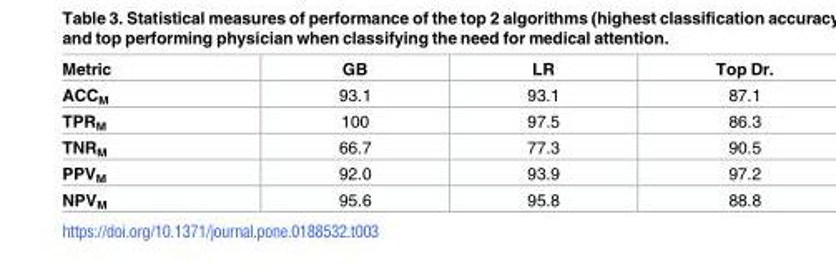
<table><thead><tr><td>Metric</td><td>GB</td><td>LR</td><td>Top Dr.</td></tr></thead><tbody><tr><td>ACC<sub>M</sub></td><td>93.1</td><td>93.1</td><td>87.1</td></tr><tr><td>TPR<sub>M</sub></td><td>100</td><td>97.5</td><td>86.3</td></tr><tr><td>TNR<sub>M</sub></td><td>66.7</td><td>77.3</td><td>90.5</td></tr><tr><td>PPV<sub>M</sub></td><td>92.0</td><td>93.9</td><td>97.2</td></tr><tr><td>NPV<sub>M</sub></td><td>95.6</td><td>95.8</td><td>88.8</td></tr></tbody></table>